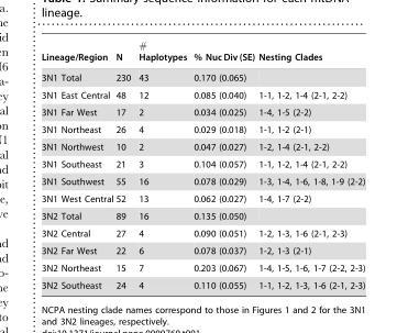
<table><thead><tr><td>Lineage/Region</td><td>N</td><td># Haplotypes</td><td>% Nuc Div (SE)</td><td>Nesting Clades</td></tr></thead><tbody><tr><td>3N1 Total</td><td>230</td><td>43</td><td>0.170 (0.065)</td><td></td></tr><tr><td>3N1 East Central</td><td>48</td><td>12</td><td>0.085 (0.040)</td><td>1-1, 1-2, 1-4 (2-1, 2-2)</td></tr><tr><td>3N1 Far West</td><td>17</td><td>2</td><td>0.034 (0.025)</td><td>1-4, 1-5 (2-2)</td></tr><tr><td>3N1 Northeast</td><td>26</td><td>4</td><td>0.029 (0.018)</td><td>1-1, 1-2 (2-1)</td></tr><tr><td>3N1 Northwest</td><td>10</td><td>2</td><td>0.047 (0.027)</td><td>1-2, 1-4 (2-1, 2-2)</td></tr><tr><td>3N1 Southeast</td><td>21</td><td>3</td><td>0.104 (0.057)</td><td>1-1, 1-2, 1-4 (2-1, 2-2)</td></tr><tr><td>3N1 Southwest</td><td>55</td><td>16</td><td>0.078 (0.029)</td><td>1-3, 1-4, 1-6, 1-8, 1-9 (2-2)</td></tr><tr><td>3N1 West Central</td><td>52</td><td>13</td><td>0.062 (0.027)</td><td>1-4, 1-7 (2-2)</td></tr><tr><td>3N2 Total</td><td>89</td><td>16</td><td>0.135 (0.050)</td><td></td></tr><tr><td>3N2 Central</td><td>27</td><td>4</td><td>0.090 (0.051)</td><td>1-2, 1-3, 1-6 (2-1, 2-3)</td></tr><tr><td>3N2 Far West</td><td>22</td><td>6</td><td>0.078 (0.037)</td><td>1-2, 1-3 (2-1)</td></tr><tr><td>3N2 Northeast</td><td>15</td><td>7</td><td>0.203 (0.067)</td><td>1-4, 1-5, 1-6, 1-7 (2-2, 2-3)</td></tr><tr><td>3N2 Southeast</td><td>24</td><td>4</td><td>0.110 (0.055)</td><td>1-1, 1-2, 1-3, 1-6 (2-1, 2-3)</td></tr></tbody></table>